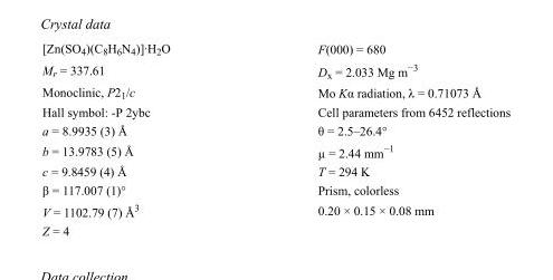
<table><tbody><tr><td>[Zn(SO<sub>4</sub>)(C<sub>8</sub>H<sub>6</sub>N<sub>4</sub>)]·H<sub>2</sub>O</td><td>F(000) = 680</td></tr><tr><td>M<sub>r</sub> = 337.61</td><td>D<sub>x</sub> = 2.033 Mg m<sup>−3</sup></td></tr><tr><td>Monoclinic, P2<sub>1</sub>/c</td><td>Mo Kα radiation, λ = 0.71073 Å</td></tr><tr><td>Hall symbol: -P 2ybc</td><td>Cell parameters from 6452 reflections</td></tr><tr><td>a = 8.9935 (3) Å</td><td>θ = 2.5–26.4°</td></tr><tr><td>b = 13.9783 (5) Å</td><td>µ = 2.44 mm<sup>−1</sup></td></tr><tr><td>c = 9.8459 (4) Å</td><td>T = 294 K</td></tr><tr><td>β = 117.007 (1)°</td><td>Prism, colorless</td></tr><tr><td>V = 1102.79 (7) Å<sup>3</sup></td><td>0.20 × 0.15 × 0.08 mm</td></tr><tr><td>Z = 4</td><td></td></tr></tbody></table>